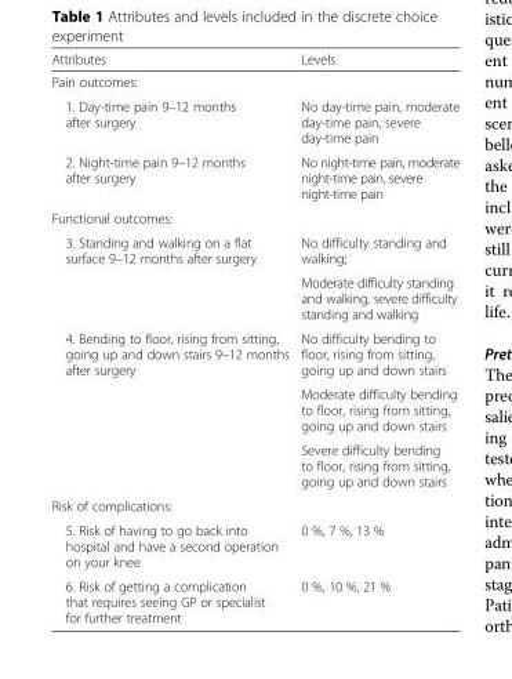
<table><thead><tr><td>Attributes</td><td>Levels</td></tr></thead><tbody><tr><td colspan="2">Pain outcomes:</td></tr><tr><td>1. Day-time pain 9–12 months after surgery</td><td>No day-time pain, moderate day-time pain, severe day-time pain</td></tr><tr><td>2. Night-time pain 9–12 months after surgery</td><td>No night-time pain, moderate night-time pain, severe night-time pain</td></tr><tr><td colspan="2">Functional outcomes:</td></tr><tr><td rowspan="2">3. Standing and walking on a flat surface 9–12 months after surgery</td><td>No difficulty standing and walking;</td></tr><tr><td>Moderate difficulty standing and walking, severe difficulty standing and walking</td></tr><tr><td rowspan="3">4. Bending to floor, rising from sitting, going up and down stairs 9–12 months after surgery</td><td>No difficulty bending to floor, rising from sitting, going up and down stairs</td></tr><tr><td>Moderate difficulty bending to floor, rising from sitting, going up and down stairs</td></tr><tr><td>Severe difficulty bending to floor, rising from sitting, going up and down stairs</td></tr><tr><td colspan="2">Risk of complications:</td></tr><tr><td>5. Risk of having to go back into hospital and have a second operation on your knee</td><td>0 %, 7 %, 13 %</td></tr><tr><td>6. Risk of getting a complication that requires seeing GP or specialist for further treatment</td><td>0 %, 10 %, 21 %</td></tr></tbody></table>